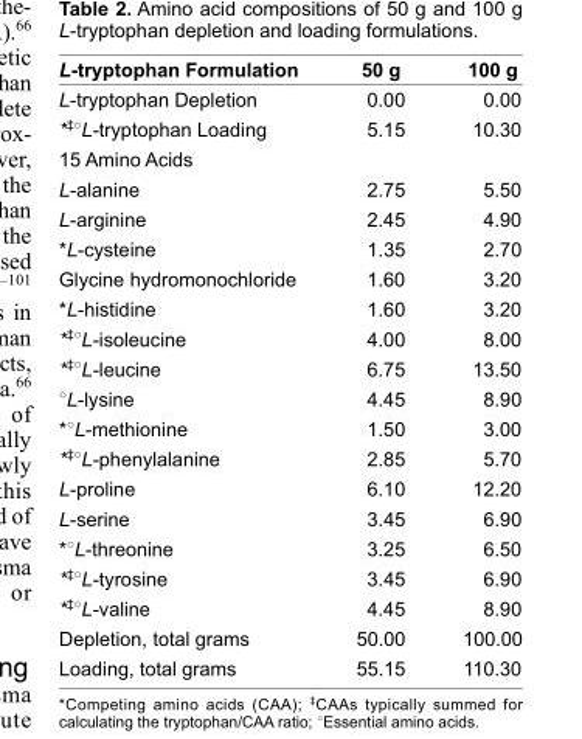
<table><thead><tr><td>L-tryptophan Formulation</td><td>50 g</td><td>100 g</td></tr></thead><tbody><tr><td>L-tryptophan Depletion</td><td>0.00</td><td>0.00</td></tr><tr><td>*‡○L-tryptophan Loading</td><td>5.15</td><td>10.30</td></tr><tr><td colspan="3">15 Amino Acids</td></tr><tr><td>L-alanine</td><td>2.75</td><td>5.50</td></tr><tr><td>L-arginine</td><td>2.45</td><td>4.90</td></tr><tr><td>*L-cysteine</td><td>1.35</td><td>2.70</td></tr><tr><td>Glycine hydromonochloride</td><td>1.60</td><td>3.20</td></tr><tr><td>*L-histidine</td><td>1.60</td><td>3.20</td></tr><tr><td>*‡○L-isoleucine</td><td>4.00</td><td>8.00</td></tr><tr><td>*‡○L-leucine</td><td>6.75</td><td>13.50</td></tr><tr><td>○L-lysine</td><td>4.45</td><td>8.90</td></tr><tr><td>*○L-methionine</td><td>1.50</td><td>3.00</td></tr><tr><td>*‡○L-phenylalanine</td><td>2.85</td><td>5.70</td></tr><tr><td>L-proline</td><td>6.10</td><td>12.20</td></tr><tr><td>L-serine</td><td>3.45</td><td>6.90</td></tr><tr><td>*○L-threonine</td><td>3.25</td><td>6.50</td></tr><tr><td>*‡○L-tyrosine</td><td>3.45</td><td>6.90</td></tr><tr><td>*‡○L-valine</td><td>4.45</td><td>8.90</td></tr><tr><td>Depletion, total grams</td><td>50.00</td><td>100.00</td></tr><tr><td>Loading, total grams</td><td>55.15</td><td>110.30</td></tr></tbody></table>